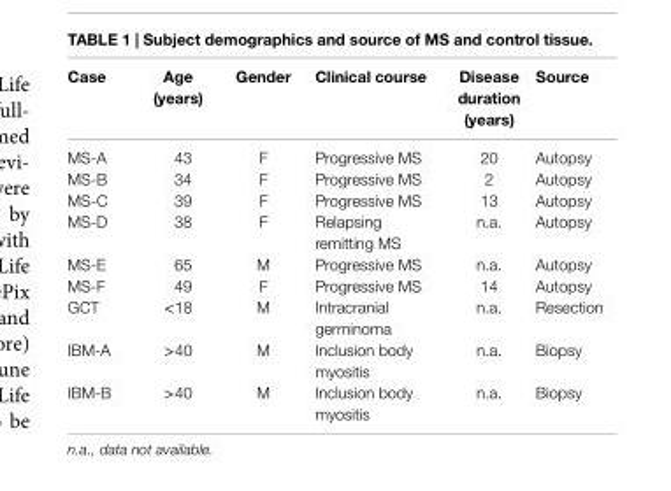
<table><thead><tr><td>case</td><td>age (years)</td><td>gender</td><td>clinical course</td><td>Disease duration (years)</td><td>source</td></tr></thead><tbody><tr><td>MS-A</td><td>43</td><td>F</td><td>Progressive MS</td><td>20</td><td>Autopsy</td></tr><tr><td>MS-B</td><td>34</td><td>F</td><td>Progressive MS</td><td>2</td><td>Autopsy</td></tr><tr><td>MS-C</td><td>39</td><td>F</td><td>Progressive MS</td><td>13</td><td>Autopsy</td></tr><tr><td>MS-D</td><td>38</td><td>F</td><td>Relapsing remitting MS</td><td>n.a.</td><td>Autopsy</td></tr><tr><td>MS-E</td><td>65</td><td>M</td><td>Progressive MS</td><td>n.a.</td><td>Autopsy</td></tr><tr><td>MS-F</td><td>49</td><td>F</td><td>Progressive MS</td><td>14</td><td>Autopsy</td></tr><tr><td>GCT</td><td>&lt;18</td><td>M</td><td>Intracranial germinoma</td><td>n.a.</td><td>Resection</td></tr><tr><td>IBM-A</td><td>&gt;40</td><td>M</td><td>Inclusion body myositis</td><td>n.a.</td><td>Biopsy</td></tr><tr><td>IBM-B</td><td>&gt;40</td><td>M</td><td>Inclusion body myositis</td><td>n.a.</td><td>Biopsy</td></tr></tbody></table>